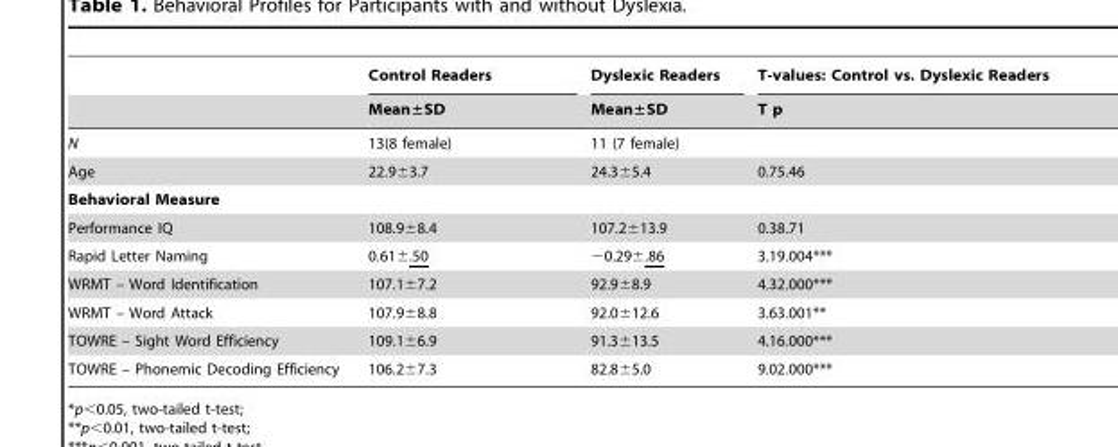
<table><thead><tr><td rowspan="2"></td><td rowspan="2">Control Readers Mean±SD</td><td rowspan="2">Dyslexic Readers Mean±SD</td><td rowspan="2">T-values: Control vs. Dyslexic Readers T p</td></tr><tr></tr></thead><tbody><tr><td>N</td><td>13(8 female)</td><td>11 (7 female)</td><td></td></tr><tr><td>Age</td><td>22.9±3.7</td><td>24.3±5.4</td><td>0.75.46</td></tr><tr><td colspan="4">Behavioral Measure</td></tr><tr><td>Performance IQ</td><td>108.9±8.4</td><td>107.2±13.9</td><td>0.38.71</td></tr><tr><td>Rapid Letter Naming</td><td>0.61±.50</td><td>−0.29±.86</td><td>3.19.004***</td></tr><tr><td>WRMT – Word Identification</td><td>107.1±7.2</td><td>92.9±8.9</td><td>4.32.000***</td></tr><tr><td>WRMT – Word Attack</td><td>107.9±8.8</td><td>92.0±12.6</td><td>3.63.001**</td></tr><tr><td>TOWRE – Sight Word Efficiency</td><td>109.1±6.9</td><td>91.3±13.5</td><td>4.16.000***</td></tr><tr><td>TOWRE – Phonemic Decoding Efficiency</td><td>106.2±7.3</td><td>82.8±5.0</td><td>9.02.000***</td></tr></tbody></table>